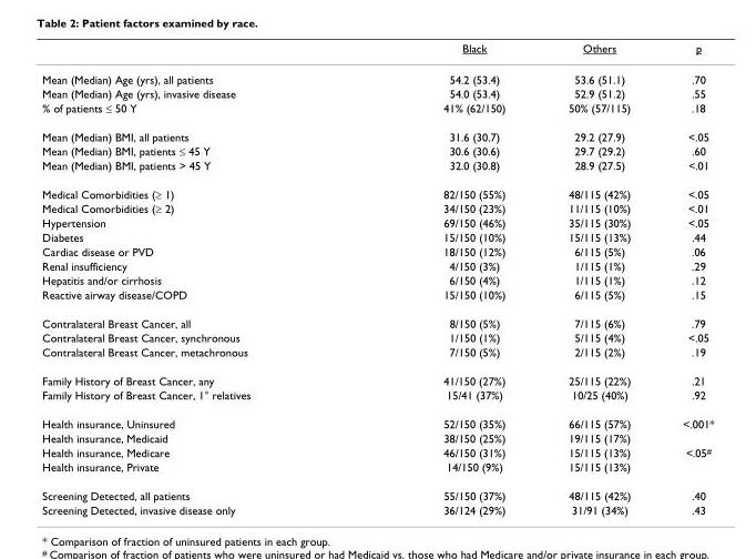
<table><thead><tr><td></td><td>Black</td><td>Others</td><td>p</td></tr></thead><tbody><tr><td>Mean (Median) Age (yrs), all patients</td><td>54.2 (53.4)</td><td>53.6 (51.1)</td><td>.70</td></tr><tr><td>Mean (Median) Age (yrs), invasive disease</td><td>54.0 (53.4)</td><td>52.9 (51.2)</td><td>.55</td></tr><tr><td>% of patients ≤ 50 Y</td><td>41% (62/150)</td><td>50% (57/115)</td><td>.18</td></tr><tr><td>Mean (Median) BMI, all patients</td><td>31.6 (30.7)</td><td>29.2 (27.9)</td><td>&lt;.05</td></tr><tr><td>Mean (Median) BMI, patients ≤ 45 Y</td><td>30.6 (30.6)</td><td>29.7 (29.2)</td><td>.60</td></tr><tr><td>Mean (Median) BMI, patients &gt; 45 Y</td><td>32.0 (30.8)</td><td>28.9 (27.5)</td><td>&lt;.01</td></tr><tr><td>Medical Comorbidities (≥ 1)</td><td>82/150 (55%)</td><td>48/115 (42%)</td><td>&lt;.05</td></tr><tr><td>Medical Comorbidities (≥ 2)</td><td>34/150 (23%)</td><td>11/115 (10%)</td><td>&lt;.01</td></tr><tr><td>Hypertension</td><td>69/150 (46%)</td><td>35/115 (30%)</td><td>&lt;.05</td></tr><tr><td>Diabetes</td><td>15/150 (10%)</td><td>15/115 (13%)</td><td>.44</td></tr><tr><td>Cardiac disease or PVD</td><td>18/150 (12%)</td><td>6/115 (5%)</td><td>.06</td></tr><tr><td>Renal insufficiency</td><td>4/150 (3%)</td><td>1/115 (1%)</td><td>.29</td></tr><tr><td>Hepatitis and/or cirrhosis</td><td>6/150 (4%)</td><td>1/115 (1%)</td><td>.12</td></tr><tr><td>Reactive airway disease/COPD</td><td>15/150 (10%)</td><td>6/115 (5%)</td><td>.15</td></tr><tr><td>Contralateral Breast Cancer, all</td><td>8/150 (5%)</td><td>7/115 (6%)</td><td>.79</td></tr><tr><td>Contralateral Breast Cancer, synchronous</td><td>1/150 (1%)</td><td>5/115 (4%)</td><td>&lt;.05</td></tr><tr><td>Contralateral Breast Cancer, metachronous</td><td>7/150 (5%)</td><td>2/115 (2%)</td><td>.19</td></tr><tr><td>Family History of Breast Cancer, any</td><td>41/150 (27%)</td><td>25/115 (22%)</td><td>.21</td></tr><tr><td>Family History of Breast Cancer, 1° relatives</td><td>15/41 (37%)</td><td>10/25 (40%)</td><td>.92</td></tr><tr><td>Health insurance, Uninsured</td><td>52/150 (35%)</td><td>66/115 (57%)</td><td>&lt;.001*</td></tr><tr><td>Health insurance, Medicaid</td><td>38/150 (25%)</td><td>19/115 (17%)</td><td></td></tr><tr><td>Health insurance, Medicare</td><td>46/150 (31%)</td><td>15/115 (13%)</td><td>&lt;.05<sup>#</sup></td></tr><tr><td>Health insurance, Private</td><td>14/150 (9%)</td><td>15/115 (13%)</td><td></td></tr><tr><td>Screening Detected, all patients</td><td>55/150 (37%)</td><td>48/115 (42%)</td><td>.40</td></tr><tr><td>Screening Detected, invasive disease only</td><td>36/124 (29%)</td><td>31/91 (34%)</td><td>.43</td></tr></tbody></table>